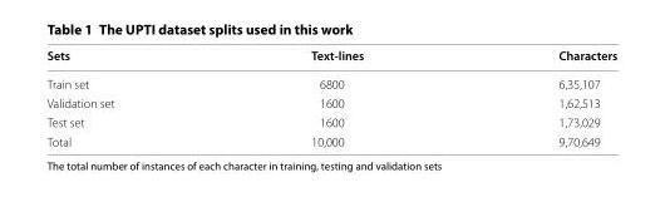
<table><thead><tr><td>Sets</td><td>Text-lines</td><td>Characters</td></tr></thead><tbody><tr><td>Train set</td><td>6800</td><td>6,35,107</td></tr><tr><td>Validation set</td><td>1600</td><td>1,62,513</td></tr><tr><td>Test set</td><td>1600</td><td>1,73,029</td></tr><tr><td>Total</td><td>10,000</td><td>9,70,649</td></tr></tbody></table>